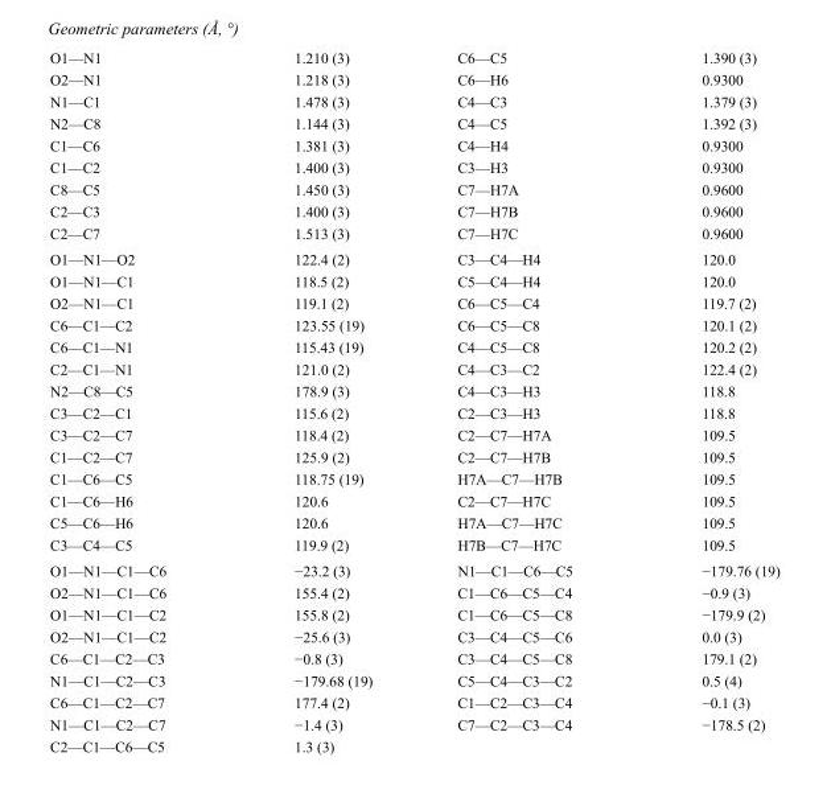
<table><tbody><tr><td>O1—N1</td><td>1.210 (3)</td><td>C6—C5</td><td>1.390 (3)</td></tr><tr><td>O2—N1</td><td>1.218 (3)</td><td>C6—H6</td><td>0.9300</td></tr><tr><td>N1—C1</td><td>1.478 (3)</td><td>C4—C3</td><td>1.379 (3)</td></tr><tr><td>N2—C8</td><td>1.144 (3)</td><td>C4—C5</td><td>1.392 (3)</td></tr><tr><td>C1—C6</td><td>1.381 (3)</td><td>C4—H4</td><td>0.9300</td></tr><tr><td>C1—C2</td><td>1.400 (3)</td><td>C3—H3</td><td>0.9300</td></tr><tr><td>C8—C5</td><td>1.450 (3)</td><td>C7—H7A</td><td>0.9600</td></tr><tr><td>C2—C3</td><td>1.400 (3)</td><td>C7—H7B</td><td>0.9600</td></tr><tr><td>C2—C7</td><td>1.513 (3)</td><td>C7—H7C</td><td>0.9600</td></tr><tr><td>O1—N1—O2</td><td>122.4 (2)</td><td>C3—C4—H4</td><td>120.0</td></tr><tr><td>O1—N1—C1</td><td>118.5 (2)</td><td>C5—C4—H4</td><td>120.0</td></tr><tr><td>O2—N1—C1</td><td>119.1 (2)</td><td>C6—C5—C4</td><td>119.7 (2)</td></tr><tr><td>C6—C1—C2</td><td>123.55 (19)</td><td>C6—C5—C8</td><td>120.1 (2)</td></tr><tr><td>C6—C1—N1</td><td>115.43 (19)</td><td>C4—C5—C8</td><td>120.2 (2)</td></tr><tr><td>C2—C1—N1</td><td>121.0 (2)</td><td>C4—C3—C2</td><td>122.4 (2)</td></tr><tr><td>N2—C8—C5</td><td>178.9 (3)</td><td>C4—C3—H3</td><td>118.8</td></tr><tr><td>C3—C2—C1</td><td>115.6 (2)</td><td>C2—C3—H3</td><td>118.8</td></tr><tr><td>C3—C2—C7</td><td>118.4 (2)</td><td>C2—C7—H7A</td><td>109.5</td></tr><tr><td>C1—C2—C7</td><td>125.9 (2)</td><td>C2—C7—H7B</td><td>109.5</td></tr><tr><td>C1—C6—C5</td><td>118.75 (19)</td><td>H7A—C7—H7B</td><td>109.5</td></tr><tr><td>C1—C6—H6</td><td>120.6</td><td>C2—C7—H7C</td><td>109.5</td></tr><tr><td>C5—C6—H6</td><td>120.6</td><td>H7A—C7—H7C</td><td>109.5</td></tr><tr><td>C3—C4—C5</td><td>119.9 (2)</td><td>H7B—C7—H7C</td><td>109.5</td></tr><tr><td>O1—N1—C1—C6</td><td>−23.2 (3)</td><td>N1—C1—C6—C5</td><td>−179.76 (19)</td></tr><tr><td>O2—N1—C1—C6</td><td>155.4 (2)</td><td>C1—C6—C5—C4</td><td>−0.9 (3)</td></tr><tr><td>O1—N1—C1—C2</td><td>155.8 (2)</td><td>C1—C6—C5—C8</td><td>−179.9 (2)</td></tr><tr><td>O2—N1—C1—C2</td><td>−25.6 (3)</td><td>C3—C4—C5—C6</td><td>0.0 (3)</td></tr><tr><td>C6—C1—C2—C3</td><td>−0.8 (3)</td><td>C3—C4—C5—C8</td><td>179.1 (2)</td></tr><tr><td>N1—C1—C2—C3</td><td>−179.68 (19)</td><td>C5—C4—C3—C2</td><td>0.5 (4)</td></tr><tr><td>C6—C1—C2—C7</td><td>177.4 (2)</td><td>C1—C2—C3—C4</td><td>−0.1 (3)</td></tr><tr><td>N1—C1—C2—C7</td><td>−1.4 (3)</td><td>C7—C2—C3—C4</td><td>−178.5 (2)</td></tr><tr><td>C2—C1—C6—C5</td><td>1.3 (3)</td><td></td><td></td></tr></tbody></table>